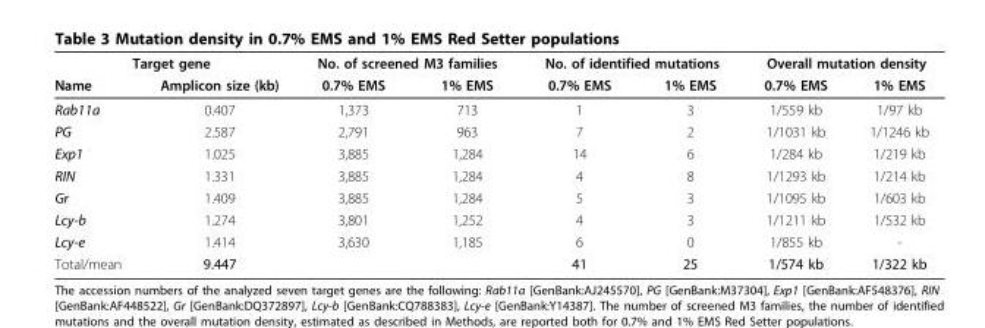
<table><thead><tr><td colspan="2">Target gene</td><td colspan="2">No. of screened M3 families</td><td colspan="2">No. of identified mutations</td><td colspan="2">Overall mutation density</td></tr><tr><td>Name</td><td>Amplicon size (kb)</td><td>0.7% EMS</td><td>1% EMS</td><td>0.7% EMS</td><td>1% EMS</td><td>0.7% EMS</td><td>1% EMS</td></tr></thead><tbody><tr><td>Rab11a</td><td>0.407</td><td>1,373</td><td>713</td><td>1</td><td>3</td><td>1/559 kb</td><td>1/97 kb</td></tr><tr><td>PG</td><td>2.587</td><td>2,791</td><td>963</td><td>7</td><td>2</td><td>1/1031 kb</td><td>1/1246 kb</td></tr><tr><td>Exp1</td><td>1.025</td><td>3,885</td><td>1,284</td><td>14</td><td>6</td><td>1/284 kb</td><td>1/219 kb</td></tr><tr><td>RIN</td><td>1.331</td><td>3,885</td><td>1,284</td><td>4</td><td>8</td><td>1/1293 kb</td><td>1/214 kb</td></tr><tr><td>Gr</td><td>1.409</td><td>3,885</td><td>1,284</td><td>5</td><td>3</td><td>1/1095 kb</td><td>1/603 kb</td></tr><tr><td>Lcy-b</td><td>1.274</td><td>3,801</td><td>1,252</td><td>4</td><td>3</td><td>1/1211 kb</td><td>1/532 kb</td></tr><tr><td>Lcy-e</td><td>1.414</td><td>3,630</td><td>1,185</td><td>6</td><td>0</td><td>1/855 kb</td><td>-</td></tr><tr><td>Total/mean</td><td>9.447</td><td></td><td></td><td>41</td><td>25</td><td>1/574 kb</td><td>1/322 kb</td></tr></tbody></table>